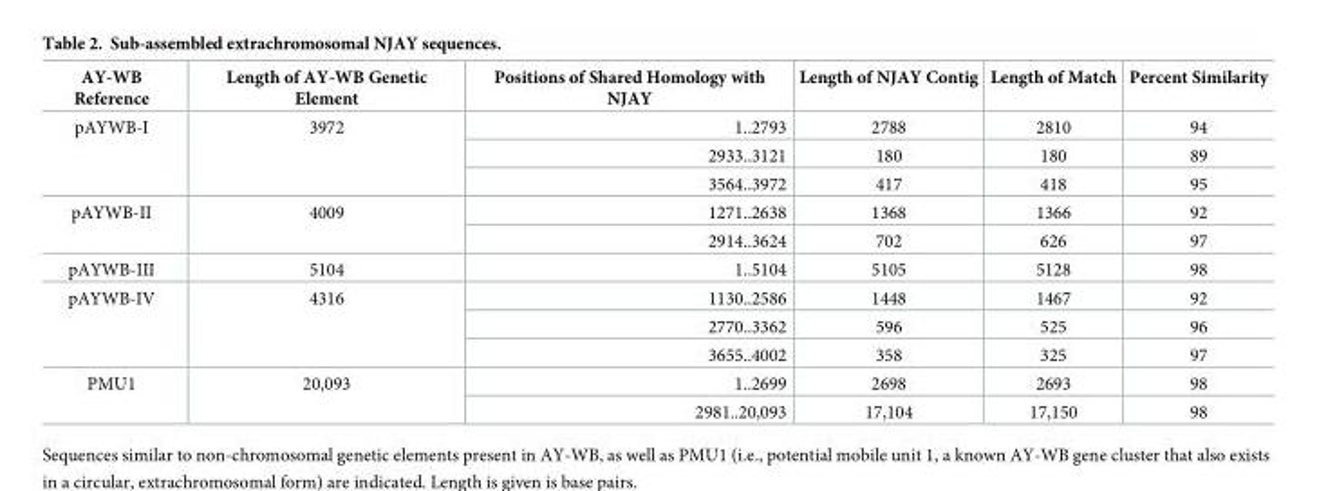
<table><thead><tr><td>AY-WB Reference</td><td>Length of AY-WB Genetic Element</td><td>Positions of Shared Homology with NJAY</td><td>Length of NJAY Contig</td><td>Length of Match</td><td>Percent Similarity</td></tr></thead><tbody><tr><td rowspan="3">pAYWB-I</td><td rowspan="3">3972</td><td>1..2793</td><td>2788</td><td>2810</td><td>94</td></tr><tr><td>2933..3121</td><td>180</td><td>180</td><td>89</td></tr><tr><td>3564..3972</td><td>417</td><td>418</td><td>95</td></tr><tr><td rowspan="2">pAYWB-II</td><td rowspan="2">4009</td><td>1271..2638</td><td>1368</td><td>1366</td><td>92</td></tr><tr><td>2914..3624</td><td>702</td><td>626</td><td>97</td></tr><tr><td>pAYWB-III</td><td>5104</td><td>1..5104</td><td>5105</td><td>5128</td><td>98</td></tr><tr><td rowspan="3">pAYWB-IV</td><td rowspan="3">4316</td><td>1130..2586</td><td>1448</td><td>1467</td><td>92</td></tr><tr><td>2770..3362</td><td>596</td><td>525</td><td>96</td></tr><tr><td>3655..4002</td><td>358</td><td>325</td><td>97</td></tr><tr><td rowspan="2">PMU1</td><td rowspan="2">20,093</td><td>1..2699</td><td>2698</td><td>2693</td><td>98</td></tr><tr><td>2981..20,093</td><td>17,104</td><td>17,150</td><td>98</td></tr></tbody></table>